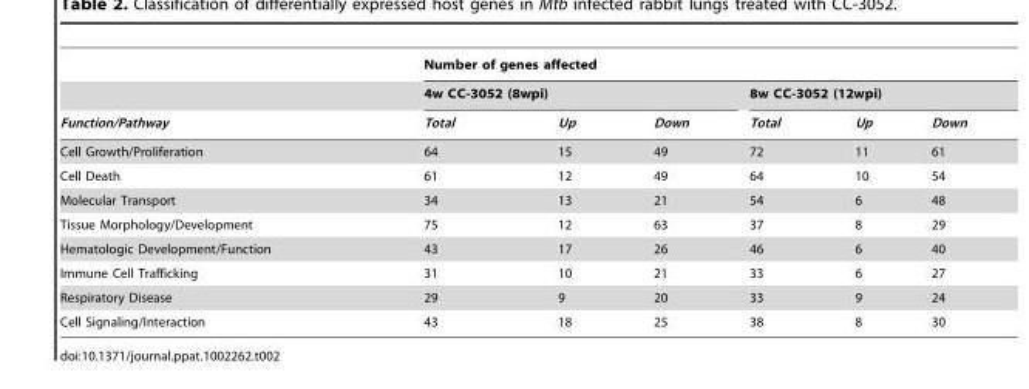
<table><thead><tr><td rowspan="3">Function/Pathway</td><td colspan="6">Number of genes affected</td></tr><tr><td colspan="3">4w CC-3052 (8wpi)</td><td colspan="3">8w CC-3052 (12wpi)</td></tr><tr><td>Total</td><td>Up</td><td>Down</td><td>Total</td><td>Up</td><td>Down</td></tr></thead><tbody><tr><td>Cell Growth/Proliferation</td><td>64</td><td>15</td><td>49</td><td>72</td><td>11</td><td>61</td></tr><tr><td>Cell Death</td><td>61</td><td>12</td><td>49</td><td>64</td><td>10</td><td>54</td></tr><tr><td>Molecular Transport</td><td>34</td><td>13</td><td>21</td><td>54</td><td>6</td><td>48</td></tr><tr><td>Tissue Morphology/Development</td><td>75</td><td>12</td><td>63</td><td>37</td><td>8</td><td>29</td></tr><tr><td>Hematologic Development/Function</td><td>43</td><td>17</td><td>26</td><td>46</td><td>6</td><td>40</td></tr><tr><td>Immune Cell Trafficking</td><td>31</td><td>10</td><td>21</td><td>33</td><td>6</td><td>27</td></tr><tr><td>Respiratory Disease</td><td>29</td><td>9</td><td>20</td><td>33</td><td>9</td><td>24</td></tr><tr><td>Cell Signaling/Interaction</td><td>43</td><td>18</td><td>25</td><td>38</td><td>8</td><td>30</td></tr></tbody></table>